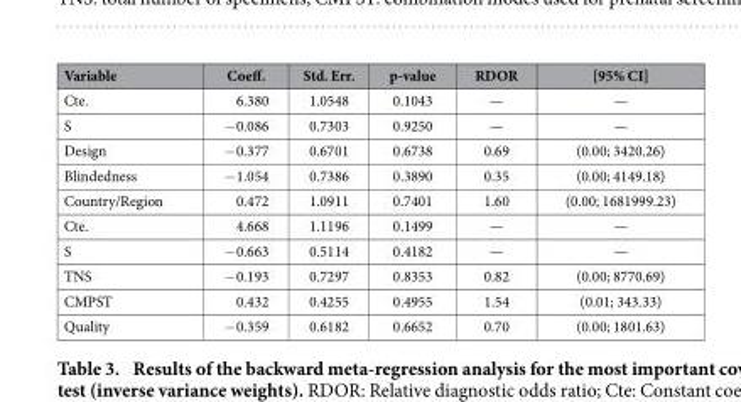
<table><thead><tr><td>Variable</td><td>Coeff.</td><td>Std. Err.</td><td>p-value</td><td>RDOR</td><td>[95% CI]</td></tr></thead><tbody><tr><td>Cte.</td><td>6.380</td><td>1.0548</td><td>0.1043</td><td>—</td><td>—</td></tr><tr><td>S</td><td>− 0.086</td><td>0.7303</td><td>0.9250</td><td>—</td><td>—</td></tr><tr><td>Design</td><td>− 0.377</td><td>0.6701</td><td>0.6738</td><td>0.69</td><td>(0.00; 3420.26)</td></tr><tr><td>Blindedness</td><td>− 1.054</td><td>0.7386</td><td>0.3890</td><td>0.35</td><td>(0.00; 4149.18)</td></tr><tr><td>Country/Region</td><td>0.472</td><td>1.0911</td><td>0.7401</td><td>1.60</td><td>(0.00; 1681999.23)</td></tr><tr><td>Cte.</td><td>4.668</td><td>1.1196</td><td>0.1499</td><td>—</td><td>—</td></tr><tr><td>S</td><td>− 0.663</td><td>0.5114</td><td>0.4182</td><td>—</td><td>—</td></tr><tr><td>TNS</td><td>− 0.193</td><td>0.7297</td><td>0.8353</td><td>0.82</td><td>(0.00; 8770.69)</td></tr><tr><td>CMPST</td><td>0.432</td><td>0.4255</td><td>0.4955</td><td>1.54</td><td>(0.01; 343.33)</td></tr><tr><td>Quality</td><td>− 0.359</td><td>0.6182</td><td>0.6652</td><td>0.70</td><td>(0.00; 1801.63)</td></tr></tbody></table>